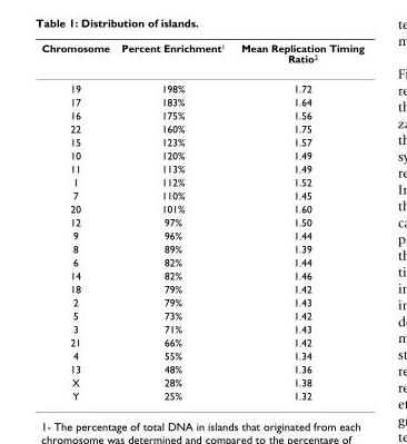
<table><thead><tr><td>Chromosome</td><td>Percent Enrichment1</td><td>Mean Replication Timing Ratio2</td></tr></thead><tbody><tr><td>19</td><td>198%</td><td>1.72</td></tr><tr><td>17</td><td>183%</td><td>1.64</td></tr><tr><td>16</td><td>175%</td><td>1.56</td></tr><tr><td>22</td><td>160%</td><td>1.75</td></tr><tr><td>15</td><td>123%</td><td>1.57</td></tr><tr><td>10</td><td>120%</td><td>1.49</td></tr><tr><td>11</td><td>113%</td><td>1.49</td></tr><tr><td>1</td><td>112%</td><td>1.52</td></tr><tr><td>7</td><td>110%</td><td>1.45</td></tr><tr><td>20</td><td>101%</td><td>1.60</td></tr><tr><td>12</td><td>97%</td><td>1.50</td></tr><tr><td>9</td><td>96%</td><td>1.44</td></tr><tr><td>8</td><td>89%</td><td>1.39</td></tr><tr><td>6</td><td>82%</td><td>1.44</td></tr><tr><td>14</td><td>82%</td><td>1.46</td></tr><tr><td>18</td><td>79%</td><td>1.42</td></tr><tr><td>2</td><td>79%</td><td>1.43</td></tr><tr><td>5</td><td>73%</td><td>1.42</td></tr><tr><td>3</td><td>71%</td><td>1.43</td></tr><tr><td>21</td><td>66%</td><td>1.42</td></tr><tr><td>4</td><td>55%</td><td>1.34</td></tr><tr><td>13</td><td>48%</td><td>1.36</td></tr><tr><td>X</td><td>28%</td><td>1.38</td></tr><tr><td>Y</td><td>25%</td><td>1.32</td></tr></tbody></table>